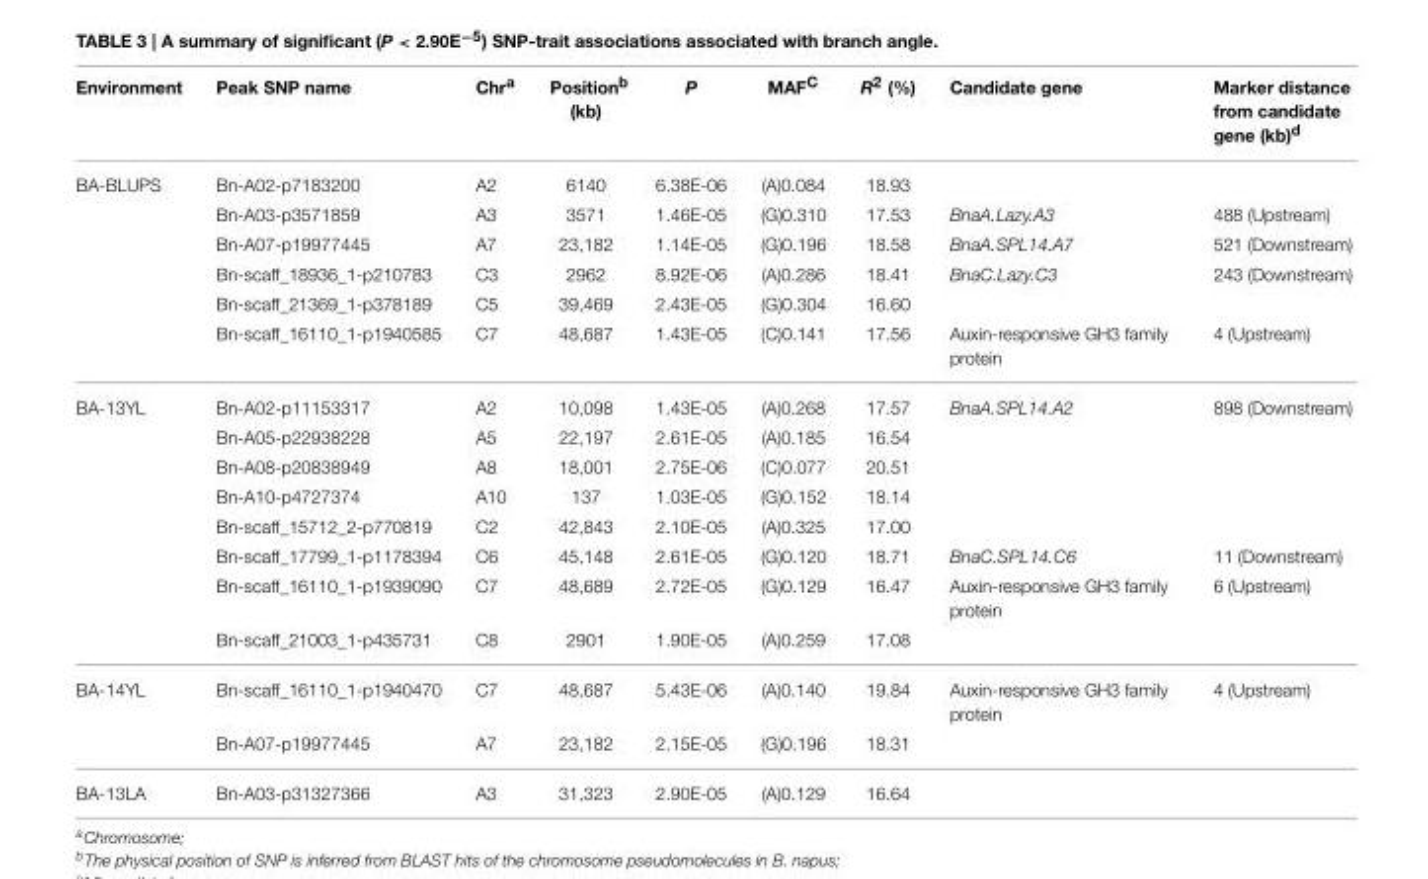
<table><thead><tr><td>Environment</td><td>Peak SNP name</td><td>Chr<sup>a</sup></td><td>Position<sup>b</sup> (kb)</td><td>P</td><td>MAF<sup>C</sup></td><td>R<sup>2</sup> (%)</td><td>Candidate gene</td><td>Marker distance from candidate gene (kb)<sup>d</sup></td></tr></thead><tbody><tr><td rowspan="6">BA-BLUPS</td><td>Bn-A02-p7183200</td><td>A2</td><td>6140</td><td>6.38E-06</td><td>(A)0.084</td><td>18.93</td><td></td><td></td></tr><tr><td>Bn-A03-p3571859</td><td>A3</td><td>3571</td><td>1.46E-05</td><td>(G)0.310</td><td>17.53</td><td>BnaA.Lazy.A3</td><td>488 (Upstream)</td></tr><tr><td>Bn-A07-p19977445</td><td>A7</td><td>23,182</td><td>1.14E-05</td><td>(G)0.196</td><td>18.58</td><td>BnaA.SPL14.A7</td><td>521 (Downstream)</td></tr><tr><td>Bn-scaff_18936_1-p210783</td><td>C3</td><td>2962</td><td>8.92E-06</td><td>(A)0.286</td><td>18.41</td><td>BnaC.Lazy.C3</td><td>243 (Downstream)</td></tr><tr><td>Bn-scaff_21369_1-p378189</td><td>C5</td><td>39,469</td><td>2.43E-05</td><td>(G)0.304</td><td>16.60</td><td></td><td></td></tr><tr><td>Bn-scaff_16110_1-p1940585</td><td>C7</td><td>48,687</td><td>1.43E-05</td><td>(C)0.141</td><td>17.56</td><td>Auxin-responsive GH3 family protein</td><td>4 (Upstream)</td></tr><tr><td rowspan="8">BA-13YL</td><td>Bn-A02-p11153317</td><td>A2</td><td>10,098</td><td>1.43E-05</td><td>(A)0.268</td><td>17.57</td><td>BnaA.SPL14.A2</td><td>898 (Downstream)</td></tr><tr><td>Bn-A05-p22938228</td><td>A5</td><td>22,197</td><td>2.61E-05</td><td>(A)0.185</td><td>16.54</td><td></td><td></td></tr><tr><td>Bn-A08-p20838949</td><td>A8</td><td>18,001</td><td>2.75E-06</td><td>(C)0.077</td><td>20.51</td><td></td><td></td></tr><tr><td>Bn-A10-p4727374</td><td>A10</td><td>137</td><td>1.03E-05</td><td>(G)0.152</td><td>18.14</td><td></td><td></td></tr><tr><td>Bn-scaff_15712_2-p770819</td><td>C2</td><td>42,843</td><td>2.10E-05</td><td>(A)0.325</td><td>17.00</td><td></td><td></td></tr><tr><td>Bn-scaff_17799_1-p1178394</td><td>C6</td><td>45,148</td><td>2.61E-05</td><td>(G)0.120</td><td>18.71</td><td>BnaC.SPL14.C6</td><td>11 (Downstream)</td></tr><tr><td>Bn-scaff_16110_1-p1939090</td><td>C7</td><td>48,689</td><td>2.72E-05</td><td>(G)0.129</td><td>16.47</td><td>Auxin-responsive GH3 family protein</td><td>6 (Upstream)</td></tr><tr><td>Bn-scaff_21003_1-p435731</td><td>C8</td><td>2901</td><td>1.90E-05</td><td>(A)0.259</td><td>17.08</td><td></td><td></td></tr><tr><td rowspan="2">BA-14YL</td><td>Bn-scaff_16110_1-p1940470</td><td>C7</td><td>48,687</td><td>5.43E-06</td><td>(A)0.140</td><td>19.84</td><td>Auxin-responsive GH3 family protein</td><td>4 (Upstream)</td></tr><tr><td>Bn-A07-p19977445</td><td>A7</td><td>23,182</td><td>2.15E-05</td><td>(G)0.196</td><td>18.31</td><td></td><td></td></tr><tr><td>BA-13LA</td><td>Bn-A03-p31327366</td><td>A3</td><td>31,323</td><td>2.90E-05</td><td>(A)0.129</td><td>16.64</td><td></td><td></td></tr></tbody></table>